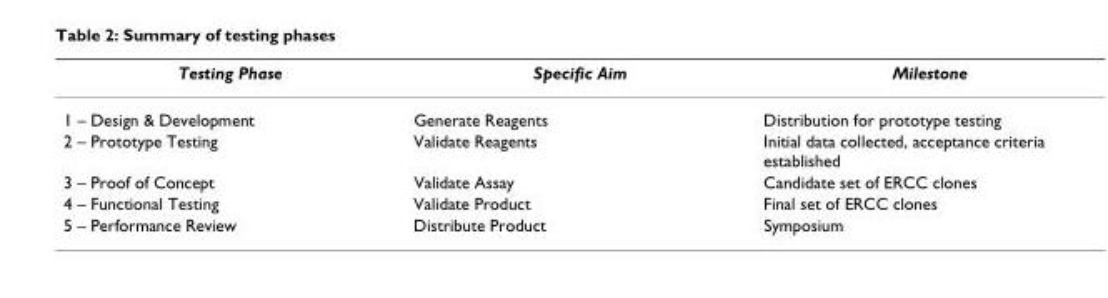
<table><thead><tr><td>Testing Phase</td><td>Specific Aim</td><td>Milestone</td></tr></thead><tbody><tr><td>1 – Design &amp; Development</td><td>Generate Reagents</td><td>Distribution for prototype testing</td></tr><tr><td>2 – Prototype Testing</td><td>Validate Reagents</td><td>Initial data collected, acceptance criteria established</td></tr><tr><td>3 – Proof of Concept</td><td>Validate Assay</td><td>Candidate set of ERCC clones</td></tr><tr><td>4 – Functional Testing</td><td>Validate Product</td><td>Final set of ERCC clones</td></tr><tr><td>5 – Performance Review</td><td>Distribute Product</td><td>Symposium</td></tr></tbody></table>